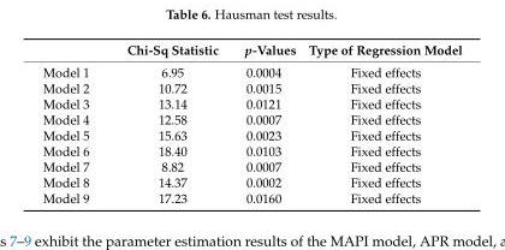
<table><thead><tr><td></td><td>Chi-Sq Statistic</td><td>p-Values</td><td>Type of Regression Model</td></tr></thead><tbody><tr><td>Model 1</td><td>6.95</td><td>0.0004</td><td>Fixed effects</td></tr><tr><td>Model 2</td><td>10.72</td><td>0.0015</td><td>Fixed effects</td></tr><tr><td>Model 3</td><td>13.14</td><td>0.0121</td><td>Fixed effects</td></tr><tr><td>Model 4</td><td>12.58</td><td>0.0007</td><td>Fixed effects</td></tr><tr><td>Model 5</td><td>15.63</td><td>0.0023</td><td>Fixed effects</td></tr><tr><td>Model 6</td><td>18.40</td><td>0.0103</td><td>Fixed effects</td></tr><tr><td>Model 7</td><td>8.82</td><td>0.0007</td><td>Fixed effects</td></tr><tr><td>Model 8</td><td>14.37</td><td>0.0002</td><td>Fixed effects</td></tr><tr><td>Model 9</td><td>17.23</td><td>0.0160</td><td>Fixed effects</td></tr></tbody></table>